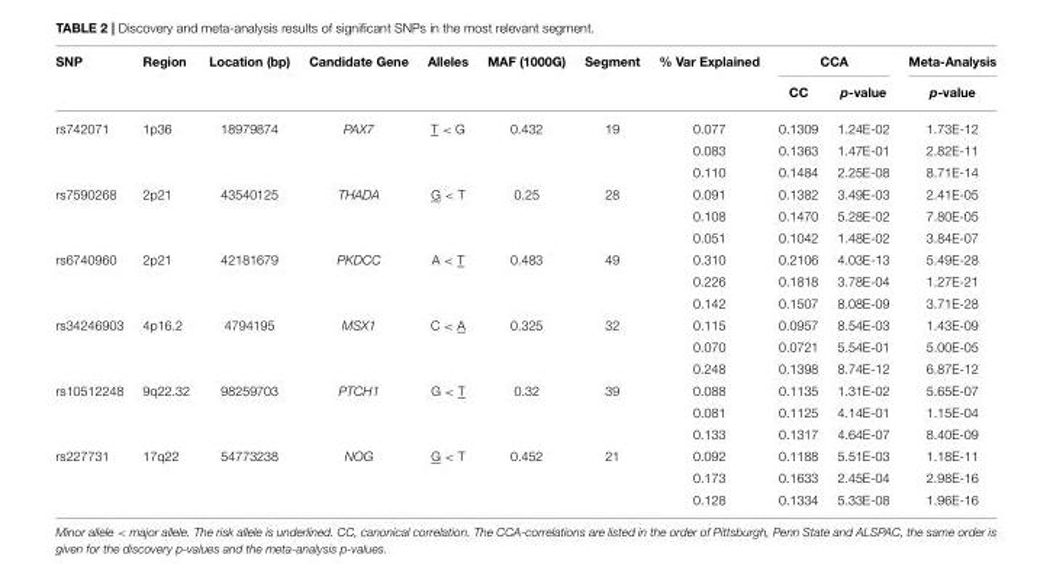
<table><thead><tr><td rowspan="2">SNP</td><td rowspan="2">Region</td><td rowspan="2">Location (bp)</td><td rowspan="2">Candidate Gene</td><td rowspan="2">Alleles</td><td rowspan="2">MAF (1000G)</td><td rowspan="2">Segment</td><td rowspan="2">% Var Explained</td><td colspan="2">CCA</td><td rowspan="2">Meta-Analysis p-value</td></tr><tr><td>CC</td><td>p-value</td></tr></thead><tbody><tr><td rowspan="3">rs742071</td><td>1p36</td><td>18979874</td><td>PAX7</td><td>T &lt; G</td><td>0.432</td><td>19</td><td>0.077</td><td>0.1309</td><td>1.24E-02</td><td>1.73E-12</td></tr><tr><td></td><td></td><td></td><td></td><td></td><td></td><td>0.083</td><td>0.1363</td><td>1.47E-01</td><td>2.82E-11</td></tr><tr><td></td><td></td><td></td><td></td><td></td><td></td><td>0.110</td><td>0.1484</td><td>2.25E-08</td><td>8.71E-14</td></tr><tr><td rowspan="3">rs7590268</td><td>2p21</td><td>43540125</td><td>THADA</td><td>G &lt; T</td><td>0.25</td><td>28</td><td>0.091</td><td>0.1382</td><td>3.49E-03</td><td>2.41E-05</td></tr><tr><td></td><td></td><td></td><td></td><td></td><td></td><td>0.108</td><td>0.1470</td><td>5.28E-02</td><td>7.80E-05</td></tr><tr><td></td><td></td><td></td><td></td><td></td><td></td><td>0.051</td><td>0.1042</td><td>1.48E-02</td><td>3.84E-07</td></tr><tr><td rowspan="3">rs6740960</td><td>2p21</td><td>42181679</td><td>PKDCC</td><td>A &lt; T</td><td>0.483</td><td>49</td><td>0.310</td><td>0.2106</td><td>4.03E-13</td><td>5.49E-28</td></tr><tr><td></td><td></td><td></td><td></td><td></td><td></td><td>0.226</td><td>0.1818</td><td>3.78E-04</td><td>1.27E-21</td></tr><tr><td></td><td></td><td></td><td></td><td></td><td></td><td>0.142</td><td>0.1507</td><td>8.08E-09</td><td>3.71E-28</td></tr><tr><td rowspan="3">rs34246903</td><td>4p16.2</td><td>4794195</td><td>MSX1</td><td>C &lt; A</td><td>0.325</td><td>32</td><td>0.115</td><td>0.0957</td><td>8.54E-03</td><td>1.43E-09</td></tr><tr><td></td><td></td><td></td><td></td><td></td><td></td><td>0.070</td><td>0.0721</td><td>5.54E-01</td><td>5.00E-05</td></tr><tr><td></td><td></td><td></td><td></td><td></td><td></td><td>0.248</td><td>0.1398</td><td>8.74E-12</td><td>6.87E-12</td></tr><tr><td rowspan="3">rs10512248</td><td>9q22.32</td><td>98259703</td><td>PTCH1</td><td>G &lt; T</td><td>0.32</td><td>39</td><td>0.088</td><td>0.1135</td><td>1.31E-02</td><td>5.65E-07</td></tr><tr><td></td><td></td><td></td><td></td><td></td><td></td><td>0.081</td><td>0.1125</td><td>4.14E-01</td><td>1.15E-04</td></tr><tr><td></td><td></td><td></td><td></td><td></td><td></td><td>0.133</td><td>0.1317</td><td>4.64E-07</td><td>8.40E-09</td></tr><tr><td rowspan="3">rs227731</td><td>17q22</td><td>54773238</td><td>NOG</td><td>G &lt; T</td><td>0.452</td><td>21</td><td>0.092</td><td>0.1188</td><td>5.51E-03</td><td>1.18E-11</td></tr><tr><td></td><td></td><td></td><td></td><td></td><td></td><td>0.173</td><td>0.1633</td><td>2.45E-04</td><td>2.98E-16</td></tr><tr><td></td><td></td><td></td><td></td><td></td><td></td><td>0.128</td><td>0.1334</td><td>5.33E-08</td><td>1.96E-16</td></tr></tbody></table>